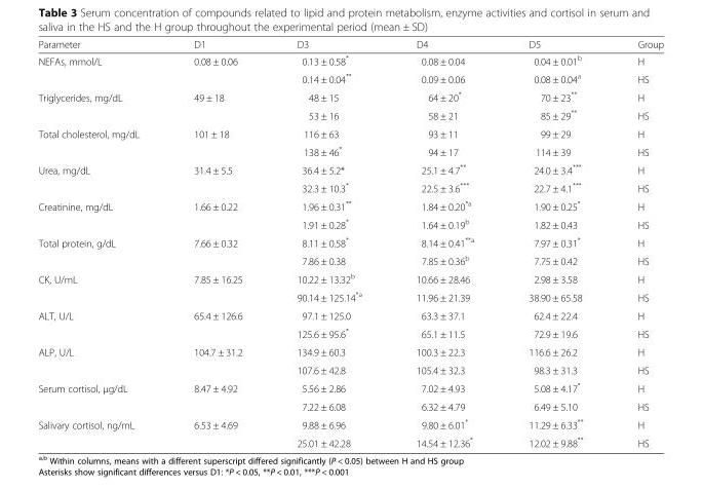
<table><thead><tr><td>Parameter</td><td>D1</td><td>D3</td><td>D4</td><td>D5</td><td>Group</td></tr></thead><tbody><tr><td rowspan="2">NEFAs, mmol/L</td><td rowspan="2">0.08 ± 0.06</td><td>0.13 ± 0.58*</td><td>0.08 ± 0.04</td><td>0.04 ± 0.01<sup>b</sup></td><td>H</td></tr><tr><td>0.14 ± 0.04**</td><td>0.09 ± 0.06</td><td>0.08 ± 0.04<sup>a</sup></td><td>HS</td></tr><tr><td rowspan="2">Triglycerides, mg/dL</td><td rowspan="2">49 ± 18</td><td>48 ± 15</td><td>64 ± 20*</td><td>70 ± 23**</td><td>H</td></tr><tr><td>53 ± 16</td><td>58 ± 21</td><td>85 ± 29**</td><td>HS</td></tr><tr><td rowspan="2">Total cholesterol, mg/dL</td><td rowspan="2">101 ± 18</td><td>116 ± 63</td><td>93 ± 11</td><td>99 ± 29</td><td>H</td></tr><tr><td>138 ± 46*</td><td>94 ± 17</td><td>114 ± 39</td><td>HS</td></tr><tr><td rowspan="2">Urea, mg/dL</td><td rowspan="2">31.4 ± 5.5</td><td>36.4 ± 5.2*</td><td>25.1 ± 4.7**</td><td>24.0 ± 3.4***</td><td>H</td></tr><tr><td>32.3 ± 10.3*</td><td>22.5 ± 3.6***</td><td>22.7 ± 4.1***</td><td>HS</td></tr><tr><td rowspan="2">Creatinine, mg/dL</td><td rowspan="2">1.66 ± 0.22</td><td>1.96 ± 0.31**</td><td>1.84 ± 0.20<sup>*a</sup></td><td>1.90 ± 0.25*</td><td>H</td></tr><tr><td>1.91 ± 0.28*</td><td>1.64 ± 0.19<sup>b</sup></td><td>1.82 ± 0.43</td><td>HS</td></tr><tr><td rowspan="2">Total protein, g/dL</td><td rowspan="2">7.66 ± 0.32</td><td>8.11 ± 0.58*</td><td>8.14 ± 0.41<sup>**a</sup></td><td>7.97 ± 0.31*</td><td>H</td></tr><tr><td>7.86 ± 0.38</td><td>7.85 ± 0.36<sup>b</sup></td><td>7.75 ± 0.42</td><td>HS</td></tr><tr><td rowspan="2">CK, U/mL</td><td rowspan="2">7.85 ± 16.25</td><td>10.22 ± 13.32<sup>b</sup></td><td>10.66 ± 28.46</td><td>2.98 ± 3.58</td><td>H</td></tr><tr><td>90.14 ± 125.14<sup>*a</sup></td><td>11.96 ± 21.39</td><td>38.90 ± 65.58</td><td>HS</td></tr><tr><td rowspan="2">ALT, U/L</td><td rowspan="2">65.4 ± 126.6</td><td>97.1 ± 125.0</td><td>63.3 ± 37.1</td><td>62.4 ± 22.4</td><td>H</td></tr><tr><td>125.6 ± 95.6*</td><td>65.1 ± 11.5</td><td>72.9 ± 19.6</td><td>HS</td></tr><tr><td rowspan="2">ALP, U/L</td><td rowspan="2">104.7 ± 31.2</td><td>134.9 ± 60.3</td><td>100.3 ± 22.3</td><td>116.6 ± 26.2</td><td>H</td></tr><tr><td>107.6 ± 42.8</td><td>105.4 ± 32.3</td><td>98.3 ± 31.3</td><td>HS</td></tr><tr><td rowspan="2">Serum cortisol, μg/dL</td><td rowspan="2">8.47 ± 4.92</td><td>5.56 ± 2.86</td><td>7.02 ± 4.93</td><td>5.08 ± 4.17*</td><td>H</td></tr><tr><td>7.22 ± 6.08</td><td>6.32 ± 4.79</td><td>6.49 ± 5.10</td><td>HS</td></tr><tr><td rowspan="2">Salivary cortisol, ng/mL</td><td rowspan="2">6.53 ± 4.69</td><td>9.88 ± 6.96</td><td>9.80 ± 6.01*</td><td>11.29 ± 6.33**</td><td>H</td></tr><tr><td>25.01 ± 42.28</td><td>14.54 ± 12.36*</td><td>12.02 ± 9.88**</td><td>HS</td></tr></tbody></table>